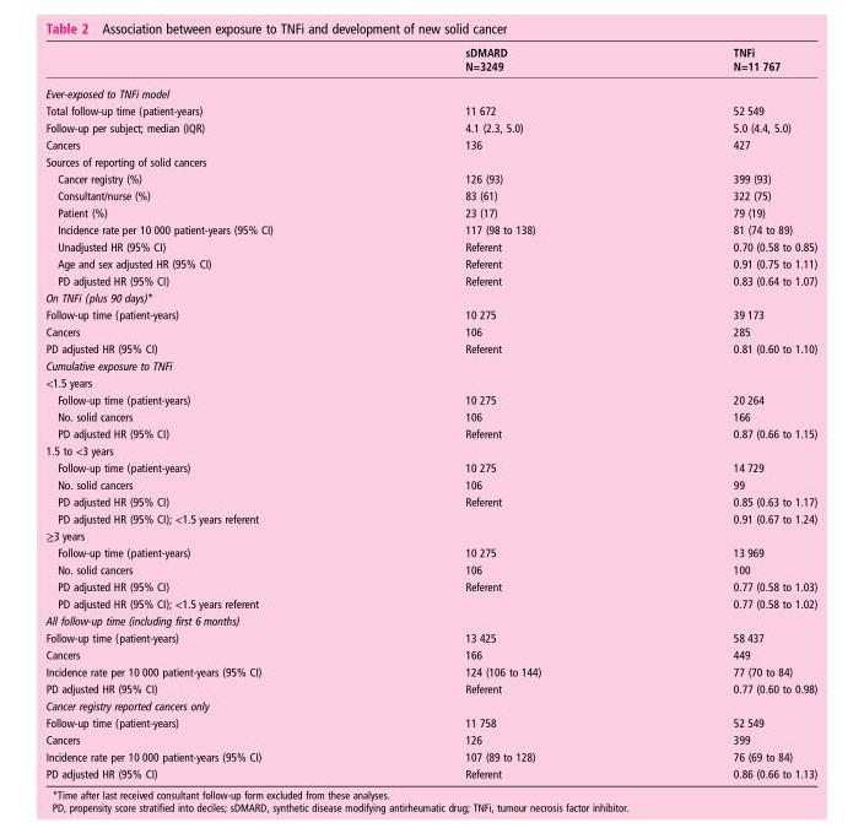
<table><thead><tr><td rowspan="2"></td><td rowspan="2">sDMARD N=3249</td><td rowspan="2">TNFi N=11 767</td></tr><tr></tr></thead><tbody><tr><td colspan="3">Ever-exposed to TNFi model</td></tr><tr><td>Total follow-up time (patient-years)</td><td>11 672</td><td>52 549</td></tr><tr><td>Follow-up per subject; median (IQR)</td><td>4.1 (2.3, 5.0)</td><td>5.0 (4.4, 5.0)</td></tr><tr><td>Cancers</td><td>136</td><td>427</td></tr><tr><td colspan="3">Sources of reporting of solid cancers</td></tr><tr><td>Cancer registry (%)</td><td>126 (93)</td><td>399 (93)</td></tr><tr><td>Consultant/nurse (%)</td><td>83 (61)</td><td>322 (75)</td></tr><tr><td>Patient (%)</td><td>23 (17)</td><td>79 (19)</td></tr><tr><td>Incidence rate per 10 000 patient-years (95% CI)</td><td>117 (98 to 138)</td><td>81 (74 to 89)</td></tr><tr><td>Unadjusted HR (95% CI)</td><td>Referent</td><td>0.70 (0.58 to 0.85)</td></tr><tr><td>Age and sex adjusted HR (95% CI)</td><td>Referent</td><td>0.91 (0.75 to 1.11)</td></tr><tr><td>PD adjusted HR (95% CI)</td><td>Referent</td><td>0.83 (0.64 to 1.07)</td></tr><tr><td colspan="3">On TNFi (plus 90 days)*</td></tr><tr><td>Follow-up time (patient-years)</td><td>10 275</td><td>39 173</td></tr><tr><td>Cancers</td><td>106</td><td>285</td></tr><tr><td>PD adjusted HR (95% CI)</td><td>Referent</td><td>0.81 (0.60 to 1.10)</td></tr><tr><td colspan="3">Cumulative exposure to TNFi</td></tr><tr><td colspan="3">&lt;1.5 years</td></tr><tr><td>Follow-up time (patient-years)</td><td>10 275</td><td>20 264</td></tr><tr><td>No. solid cancers</td><td>106</td><td>166</td></tr><tr><td>PD adjusted HR (95% CI)</td><td>Referent</td><td>0.87 (0.66 to 1.15)</td></tr><tr><td colspan="3">1.5 to &lt;3 years</td></tr><tr><td>Follow-up time (patient-years)</td><td>10 275</td><td>14 729</td></tr><tr><td>No. solid cancers</td><td>106</td><td>99</td></tr><tr><td>PD adjusted HR (95% CI)</td><td>Referent</td><td>0.85 (0.63 to 1.17)</td></tr><tr><td>PD adjusted HR (95% CI); &lt;1.5 years referent</td><td></td><td>0.91 (0.67 to 1.24)</td></tr><tr><td colspan="3">≥3 years</td></tr><tr><td>Follow-up time (patient-years)</td><td>10 275</td><td>13 969</td></tr><tr><td>No. solid cancers</td><td>106</td><td>100</td></tr><tr><td>PD adjusted HR (95% CI)</td><td>Referent</td><td>0.77 (0.58 to 1.03)</td></tr><tr><td>PD adjusted HR (95% CI); &lt;1.5 years referent</td><td></td><td>0.77 (0.58 to 1.02)</td></tr><tr><td colspan="3">All follow-up time (including first 6 months)</td></tr><tr><td>Follow-up time (patient-years)</td><td>13 425</td><td>58 437</td></tr><tr><td>Cancers</td><td>166</td><td>449</td></tr><tr><td>Incidence rate per 10 000 patient-years (95% CI)</td><td>124 (106 to 144)</td><td>77 (70 to 84)</td></tr><tr><td>PD adjusted HR (95% CI)</td><td>Referent</td><td>0.77 (0.60 to 0.98)</td></tr><tr><td colspan="3">Cancer registry reported cancers only</td></tr><tr><td>Follow-up time (patient-years)</td><td>11 758</td><td>52 549</td></tr><tr><td>Cancers</td><td>126</td><td>399</td></tr><tr><td>Incidence rate per 10 000 patient-years (95% CI)</td><td>107 (89 to 128)</td><td>76 (69 to 84)</td></tr><tr><td>PD adjusted HR (95% CI)</td><td>Referent</td><td>0.86 (0.66 to 1.13)</td></tr></tbody></table>